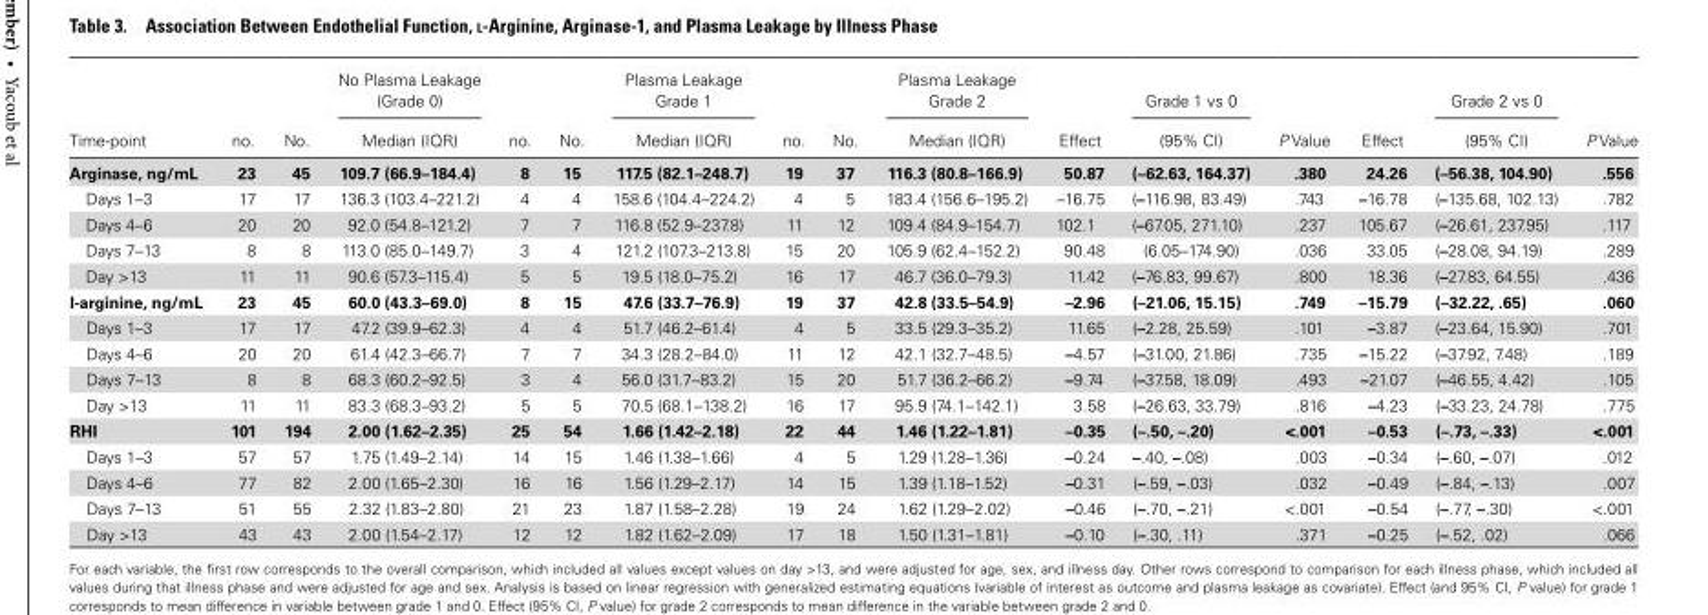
<table><thead><tr><td rowspan="2">Time-point</td><td rowspan="2">no.</td><td rowspan="2">No.</td><td rowspan="2">No Plasma Leakage (Grade 0) Median (IQR)</td><td rowspan="2">no.</td><td rowspan="2">No.</td><td rowspan="2">Plasma Leakage Grade 1 Median (IQR)</td><td rowspan="2">no.</td><td rowspan="2">No.</td><td rowspan="2">Plasma Leakage Grade 2 Median (IQR)</td><td rowspan="2">Effect</td><td rowspan="2">Grade 1 vs 0 (95% CI)</td><td rowspan="2">P Value</td><td rowspan="2">Effect</td><td rowspan="2">Grade 2 vs 0 (95% CI)</td><td rowspan="2">P Value</td></tr><tr></tr></thead><tbody><tr><td>Arginase, ng/mL</td><td>23</td><td>45</td><td>109.7 (66.9–184.4)</td><td>8</td><td>15</td><td>117.5 (82.1–248.7)</td><td>19</td><td>37</td><td>116.3 (80.8–166.9)</td><td>50.87</td><td>(–62.63, 164.37)</td><td>.380</td><td>24.26</td><td>(–56.38, 104.90)</td><td>.556</td></tr><tr><td>Days 1–3</td><td>17</td><td>17</td><td>136.3 (103.4–221.2)</td><td>4</td><td>4</td><td>158.6 (104.4–224.2)</td><td>4</td><td>5</td><td>183.4 (156.6–195.2)</td><td>–16.75</td><td>(–116.98, 83.49)</td><td>.743</td><td>–16.78</td><td>(–135.68, 102.13)</td><td>.782</td></tr><tr><td>Days 4–6</td><td>20</td><td>20</td><td>92.0 (54.8–121.2)</td><td>7</td><td>7</td><td>116.8 (52.9–237.8)</td><td>11</td><td>12</td><td>109.4 (84.9–154.7)</td><td>102.1</td><td>(–67.05, 271.10)</td><td>.237</td><td>105.67</td><td>(–26.61, 237.95)</td><td>.117</td></tr><tr><td>Days 7–13</td><td>8</td><td>8</td><td>113.0 (85.0–149.7)</td><td>3</td><td>4</td><td>121.2 (107.3–213.8)</td><td>15</td><td>20</td><td>105.9 (62.4–152.2)</td><td>90.48</td><td>(6.05–174.90)</td><td>.036</td><td>33.05</td><td>(–28.08, 94.19)</td><td>.289</td></tr><tr><td>Day &gt;13</td><td>11</td><td>11</td><td>90.6 (57.3–115.4)</td><td>5</td><td>5</td><td>19.5 (18.0–75.2)</td><td>16</td><td>17</td><td>46.7 (36.0–79.3)</td><td>11.42</td><td>(–76.83, 99.67)</td><td>.800</td><td>18.36</td><td>(–27.83, 64.55)</td><td>.436</td></tr><tr><td>l-arginine, ng/mL</td><td>23</td><td>45</td><td>60.0 (43.3–69.0)</td><td>8</td><td>15</td><td>47.6 (33.7–76.9)</td><td>19</td><td>37</td><td>42.8 (33.5–54.9)</td><td>–2.96</td><td>(–21.06, 15.15)</td><td>.749</td><td>–15.79</td><td>(–32.22, .65)</td><td>.060</td></tr><tr><td>Days 1–3</td><td>17</td><td>17</td><td>47.2 (39.9–62.3)</td><td>4</td><td>4</td><td>51.7 (46.2–61.4)</td><td>4</td><td>5</td><td>33.5 (29.3–35.2)</td><td>11.65</td><td>(–2.28, 25.59)</td><td>.101</td><td>–3.87</td><td>(–23.64, 15.90)</td><td>.701</td></tr><tr><td>Days 4–6</td><td>20</td><td>20</td><td>61.4 (42.3–66.7)</td><td>7</td><td>7</td><td>34.3 (28.2–84.0)</td><td>11</td><td>12</td><td>42.1 (32.7–48.5)</td><td>–4.57</td><td>(–31.00, 21.86)</td><td>.735</td><td>–15.22</td><td>(–37.92, 7.48)</td><td>.189</td></tr><tr><td>Days 7–13</td><td>8</td><td>8</td><td>68.3 (60.2–92.5)</td><td>3</td><td>4</td><td>56.0 (31.7–83.2)</td><td>15</td><td>20</td><td>51.7 (36.2–66.2)</td><td>–9.74</td><td>(–37.58, 18.09)</td><td>.493</td><td>–21.07</td><td>(–46.55, 4.42)</td><td>.105</td></tr><tr><td>Day &gt;13</td><td>11</td><td>11</td><td>83.3 (68.3–93.2)</td><td>5</td><td>5</td><td>70.5 (68.1–138.2)</td><td>16</td><td>17</td><td>95.9 (74.1–142.1)</td><td>3.58</td><td>(–26.63, 33.79)</td><td>.816</td><td>–4.23</td><td>(–33.23, 24.78)</td><td>.775</td></tr><tr><td>RHI</td><td>101</td><td>194</td><td>2.00 (1.62–2.35)</td><td>25</td><td>54</td><td>1.66 (1.42–2.18)</td><td>22</td><td>44</td><td>1.46 (1.22–1.81)</td><td>–0.35</td><td>(–.50, –.20)</td><td>&lt;.001</td><td>–0.53</td><td>(–.73, –.33)</td><td>&lt;.001</td></tr><tr><td>Days 1–3</td><td>57</td><td>57</td><td>1.75 (1.49–2.14)</td><td>14</td><td>15</td><td>1.46 (1.38–1.66)</td><td>4</td><td>5</td><td>1.29 (1.28–1.36)</td><td>–0.24</td><td>–.40, –.08)</td><td>.003</td><td>–0.34</td><td>(–.60, –.07)</td><td>.012</td></tr><tr><td>Days 4–6</td><td>77</td><td>82</td><td>2.00 (1.65–2.30)</td><td>16</td><td>16</td><td>1.56 (1.29–2.17)</td><td>14</td><td>15</td><td>1.39 (1.18–1.52)</td><td>–0.31</td><td>(–.59, –.03)</td><td>.032</td><td>–0.49</td><td>(–.84, –.13)</td><td>.007</td></tr><tr><td>Days 7–13</td><td>51</td><td>55</td><td>2.32 (1.83–2.80)</td><td>21</td><td>23</td><td>1.87 (1.58–2.28)</td><td>19</td><td>24</td><td>1.62 (1.29–2.02)</td><td>–0.46</td><td>(–.70, –.21)</td><td>&lt;.001</td><td>–0.54</td><td>(–.77, –.30)</td><td>&lt;.001</td></tr><tr><td>Day &gt;13</td><td>43</td><td>43</td><td>2.00 (1.54–2.17)</td><td>12</td><td>12</td><td>1.82 (1.62–2.09)</td><td>17</td><td>18</td><td>1.50 (1.31–1.81)</td><td>–0.10</td><td>(–.30, .11)</td><td>.371</td><td>–0.25</td><td>(–.52, .02)</td><td>.066</td></tr></tbody></table>